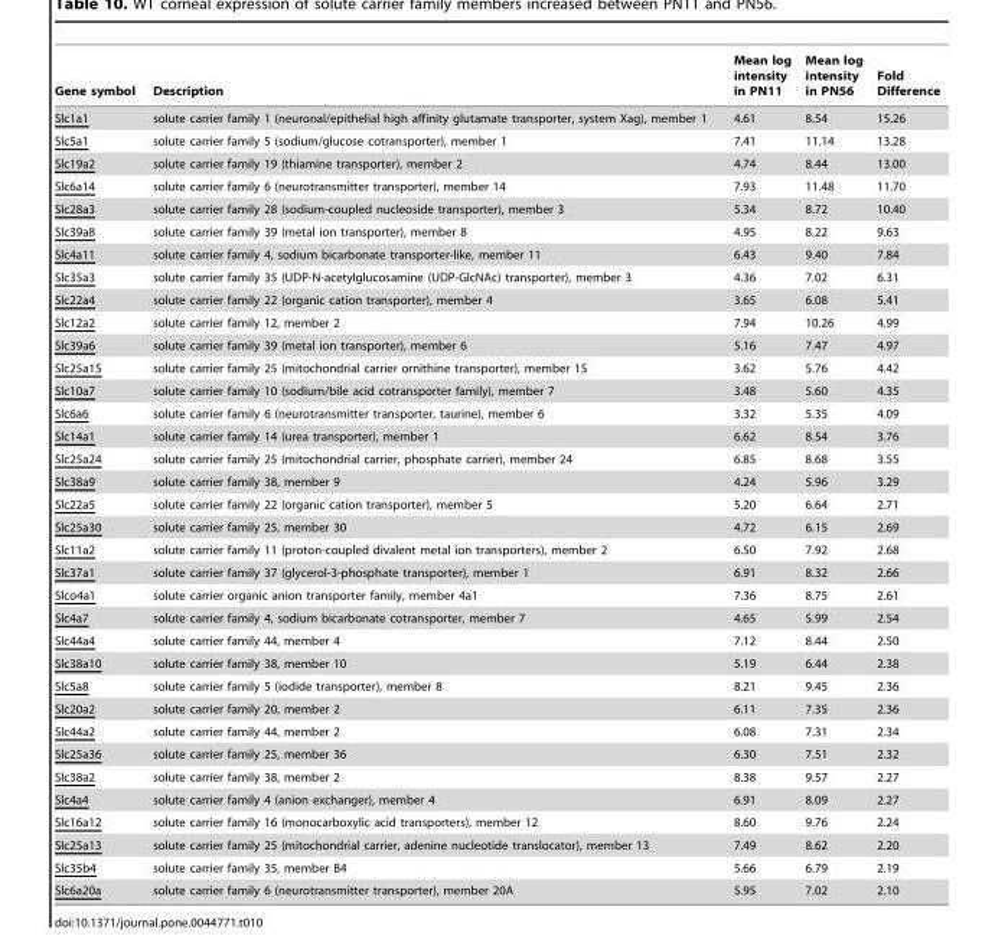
<table><thead><tr><td>Gene symbol</td><td>Description</td><td>Mean log intensity in PN11</td><td>Mean log intensity in PN56</td><td>Fold Difference</td></tr></thead><tbody><tr><td>Slc1a1</td><td>solute carrier family 1 (neuronal/epithelial high affinity glutamate transporter, system Xag), member 1</td><td>4.61</td><td>8.54</td><td>15.26</td></tr><tr><td>Slc5a1</td><td>solute carrier family 5 (sodium/glucose cotransporter), member 1</td><td>7.41</td><td>11.14</td><td>13.28</td></tr><tr><td>Slc19a2</td><td>solute carrier family 19 (thiamine transporter), member 2</td><td>4.74</td><td>8.44</td><td>13.00</td></tr><tr><td>Slc6a14</td><td>solute carrier family 6 (neurotransmitter transporter), member 14</td><td>7.93</td><td>11.48</td><td>11.70</td></tr><tr><td>Slc28a3</td><td>solute carrier family 28 (sodium-coupled nucleoside transporter), member 3</td><td>5.34</td><td>8.72</td><td>10.40</td></tr><tr><td>Slc39a8</td><td>solute carrier family 39 (metal ion transporter), member 8</td><td>4.95</td><td>8.22</td><td>9.63</td></tr><tr><td>Slc4a11</td><td>solute carrier family 4, sodium bicarbonate transporter-like, member 11</td><td>6.43</td><td>9.40</td><td>7.84</td></tr><tr><td>Slc35a3</td><td>solute carrier family 35 (UDP-N-acetylglucosamine (UDP-GlcNAc) transporter), member 3</td><td>4.36</td><td>7.02</td><td>6.31</td></tr><tr><td>Slc22a4</td><td>solute carrier family 22 (organic cation transporter), member 4</td><td>3.65</td><td>6.08</td><td>5.41</td></tr><tr><td>Slc12a2</td><td>solute carrier family 12, member 2</td><td>7.94</td><td>10.26</td><td>4.99</td></tr><tr><td>Slc39a6</td><td>solute carrier family 39 (metal ion transporter), member 6</td><td>5.16</td><td>7.47</td><td>4.97</td></tr><tr><td>Slc25a15</td><td>solute carrier family 25 (mitochondrial carrier ornithine transporter), member 15</td><td>3.62</td><td>5.76</td><td>4.42</td></tr><tr><td>Slc10a7</td><td>solute carrier family 10 (sodium/bile acid cotransporter family), member 7</td><td>3.48</td><td>5.60</td><td>4.35</td></tr><tr><td>Slc6a6</td><td>solute carrier family 6 (neurotransmitter transporter, taurine), member 6</td><td>3.32</td><td>5.35</td><td>4.09</td></tr><tr><td>Slc14a1</td><td>solute carrier family 14 (urea transporter), member 1</td><td>6.62</td><td>8.54</td><td>3.76</td></tr><tr><td>Slc25a24</td><td>solute carrier family 25 (mitochondrial carrier, phosphate carrier), member 24</td><td>6.85</td><td>8.68</td><td>3.55</td></tr><tr><td>Slc38a9</td><td>solute carrier family 38, member 9</td><td>4.24</td><td>5.96</td><td>3.29</td></tr><tr><td>Slc22a5</td><td>solute carrier family 22 (organic cation transporter), member 5</td><td>5.20</td><td>6.64</td><td>2.71</td></tr><tr><td>Slc25a30</td><td>solute carrier family 25, member 30</td><td>4.72</td><td>6.15</td><td>2.69</td></tr><tr><td>Slc11a2</td><td>solute carrier family 11 (proton-coupled divalent metal ion transporters), member 2</td><td>6.50</td><td>7.92</td><td>2.68</td></tr><tr><td>Slc37a1</td><td>solute carrier family 37 (glycerol-3-phosphate transporter), member 1</td><td>6.91</td><td>8.32</td><td>2.66</td></tr><tr><td>Slco4a1</td><td>solute carrier organic anion transporter family, member 4a1</td><td>7.36</td><td>8.75</td><td>2.61</td></tr><tr><td>Slc4a7</td><td>solute carrier family 4, sodium bicarbonate cotransporter, member 7</td><td>4.65</td><td>5.99</td><td>2.54</td></tr><tr><td>Slc44a4</td><td>solute carrier family 44, member 4</td><td>7.12</td><td>8.44</td><td>2.50</td></tr><tr><td>Slc38a10</td><td>solute carrier family 38, member 10</td><td>5.19</td><td>6.44</td><td>2.38</td></tr><tr><td>Slc5a8</td><td>solute carrier family 5 (iodide transporter), member 8</td><td>8.21</td><td>9.45</td><td>2.36</td></tr><tr><td>Slc20a2</td><td>solute carrier family 20, member 2</td><td>6.11</td><td>7.35</td><td>2.36</td></tr><tr><td>Slc44a2</td><td>solute carrier family 44, member 2</td><td>6.08</td><td>7.31</td><td>2.34</td></tr><tr><td>Slc25a36</td><td>solute carrier family 25, member 36</td><td>6.30</td><td>7.51</td><td>2.32</td></tr><tr><td>Slc38a2</td><td>solute carrier family 38, member 2</td><td>8.38</td><td>9.57</td><td>2.27</td></tr><tr><td>Slc4a4</td><td>solute carrier family 4 (anion exchanger), member 4</td><td>6.91</td><td>8.09</td><td>2.27</td></tr><tr><td>Slc16a12</td><td>solute carrier family 16 (monocarboxylic acid transporters), member 12</td><td>8.60</td><td>9.76</td><td>2.24</td></tr><tr><td>Slc25a13</td><td>solute carrier family 25 (mitochondrial carrier, adenine nucleotide translocator), member 13</td><td>7.49</td><td>8.62</td><td>2.20</td></tr><tr><td>Slc35b4</td><td>solute carrier family 35, member B4</td><td>5.66</td><td>6.79</td><td>2.19</td></tr><tr><td>Slc6a20a</td><td>solute carrier family 6 (neurotransmitter transporter), member 20A</td><td>5.95</td><td>7.02</td><td>2.10</td></tr></tbody></table>